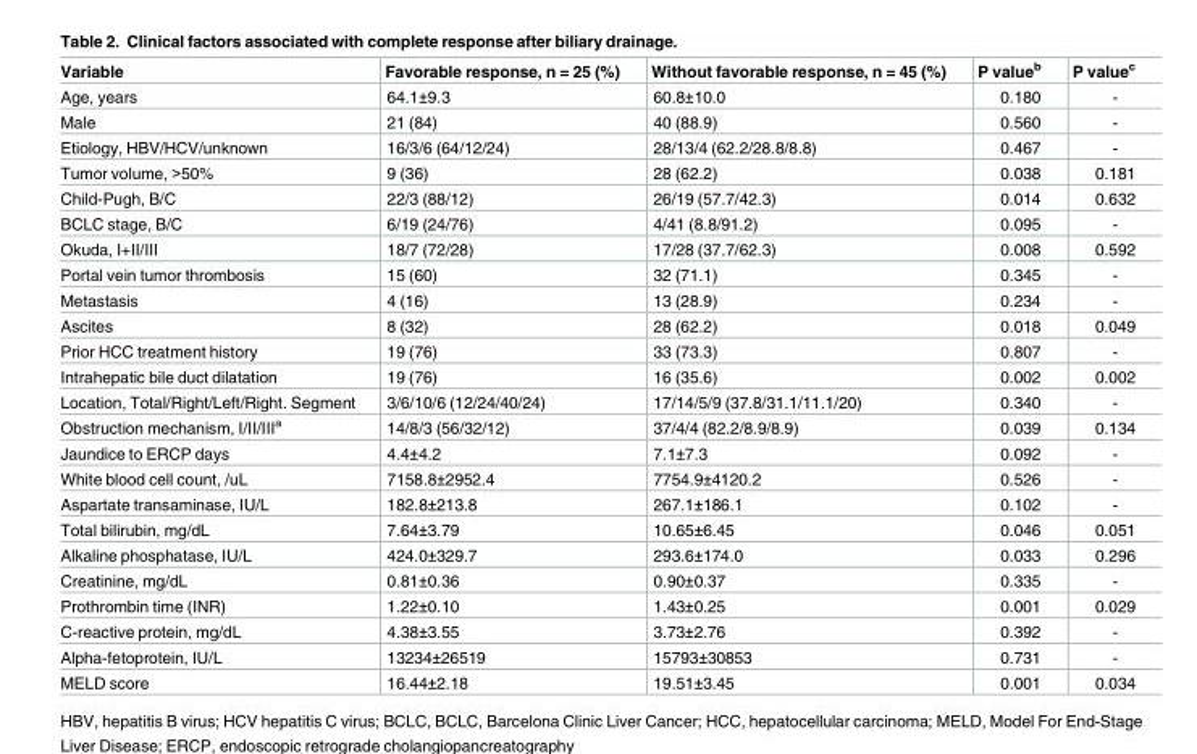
<table><thead><tr><td>Variable</td><td>Favorable response, n = 25 (%)</td><td>Without favorable response, n = 45 (%)</td><td>P value<sup>b</sup></td><td>P value<sup>c</sup></td></tr></thead><tbody><tr><td>Age, years</td><td>64.1±9.3</td><td>60.8±10.0</td><td>0.180</td><td>-</td></tr><tr><td>Male</td><td>21 (84)</td><td>40 (88.9)</td><td>0.560</td><td>-</td></tr><tr><td>Etiology, HBV/HCV/unknown</td><td>16/3/6 (64/12/24)</td><td>28/13/4 (62.2/28.8/8.8)</td><td>0.467</td><td>-</td></tr><tr><td>Tumor volume, &gt;50%</td><td>9 (36)</td><td>28 (62.2)</td><td>0.038</td><td>0.181</td></tr><tr><td>Child-Pugh, B/C</td><td>22/3 (88/12)</td><td>26/19 (57.7/42.3)</td><td>0.014</td><td>0.632</td></tr><tr><td>BCLC stage, B/C</td><td>6/19 (24/76)</td><td>4/41 (8.8/91.2)</td><td>0.095</td><td>-</td></tr><tr><td>Okuda, I+II/III</td><td>18/7 (72/28)</td><td>17/28 (37.7/62.3)</td><td>0.008</td><td>0.592</td></tr><tr><td>Portal vein tumor thrombosis</td><td>15 (60)</td><td>32 (71.1)</td><td>0.345</td><td>-</td></tr><tr><td>Metastasis</td><td>4 (16)</td><td>13 (28.9)</td><td>0.234</td><td>-</td></tr><tr><td>Ascites</td><td>8 (32)</td><td>28 (62.2)</td><td>0.018</td><td>0.049</td></tr><tr><td>Prior HCC treatment history</td><td>19 (76)</td><td>33 (73.3)</td><td>0.807</td><td>-</td></tr><tr><td>Intrahepatic bile duct dilatation</td><td>19 (76)</td><td>16 (35.6)</td><td>0.002</td><td>0.002</td></tr><tr><td>Location, Total/Right/Left/Right. Segment</td><td>3/6/10/6 (12/24/40/24)</td><td>17/14/5/9 (37.8/31.1/11.1/20)</td><td>0.340</td><td>-</td></tr><tr><td>Obstruction mechanism, I/II/III<sup>a</sup></td><td>14/8/3 (56/32/12)</td><td>37/4/4 (82.2/8.9/8.9)</td><td>0.039</td><td>0.134</td></tr><tr><td>Jaundice to ERCP days</td><td>4.4±4.2</td><td>7.1±7.3</td><td>0.092</td><td>-</td></tr><tr><td>White blood cell count, /uL</td><td>7158.8±2952.4</td><td>7754.9±4120.2</td><td>0.526</td><td>-</td></tr><tr><td>Aspartate transaminase, IU/L</td><td>182.8±213.8</td><td>267.1±186.1</td><td>0.102</td><td>-</td></tr><tr><td>Total bilirubin, mg/dL</td><td>7.64±3.79</td><td>10.65±6.45</td><td>0.046</td><td>0.051</td></tr><tr><td>Alkaline phosphatase, IU/L</td><td>424.0±329.7</td><td>293.6±174.0</td><td>0.033</td><td>0.296</td></tr><tr><td>Creatinine, mg/dL</td><td>0.81±0.36</td><td>0.90±0.37</td><td>0.335</td><td>-</td></tr><tr><td>Prothrombin time (INR)</td><td>1.22±0.10</td><td>1.43±0.25</td><td>0.001</td><td>0.029</td></tr><tr><td>C-reactive protein, mg/dL</td><td>4.38±3.55</td><td>3.73±2.76</td><td>0.392</td><td>-</td></tr><tr><td>Alpha-fetoprotein, IU/L</td><td>13234±26519</td><td>15793±30853</td><td>0.731</td><td>-</td></tr><tr><td>MELD score</td><td>16.44±2.18</td><td>19.51±3.45</td><td>0.001</td><td>0.034</td></tr></tbody></table>